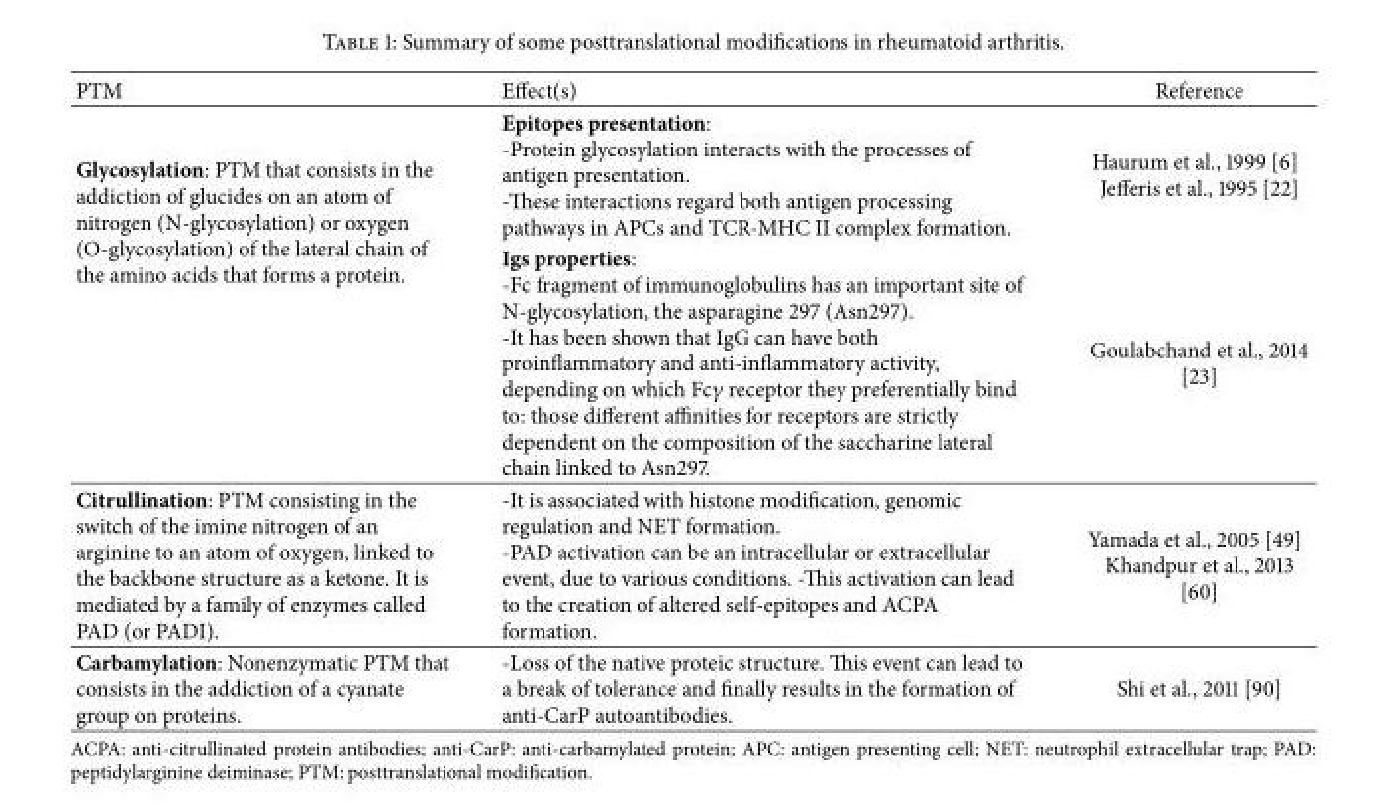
<table><tbody><tr><td>PTM</td><td>Effect(s)</td><td>Reference</td></tr><tr><td rowspan="2">Glycosylation: PTM that consists in the addiction of glucides on an atom of nitrogen (N-glycosylation) or oxygen (O-glycosylation) of the lateral chain of the amino acids that forms a protein.</td><td>Epitopes presentation: -Protein glycosylation interacts with the processes of antigen presentation. -These interactions regard both antigen processing pathways in APCs and TCR-MHC II complex formation.</td><td>Haurum et al., 1999 [6] Jefferis et al., 1995 [22]</td></tr><tr><td>Igs properties: -Fc fragment of immunoglobulins has an important site of N-glycosylation, the asparagine 297 (Asn297). -It has been shown that IgG can have both proinflammatory and anti-inflammatory activity, depending on which Fc𝛾 receptor they preferentially bind to: those different affinities for receptors are strictly dependent on the composition of the saccharine lateral chain linked to Asn297.</td><td>Goulabchand et al., 2014 [23]</td></tr><tr><td>Citrullination: PTM consisting in the switch of the imine nitrogen of an arginine to an atom of oxygen, linked to the backbone structure as a ketone. It is mediated by a family of enzymes called PAD (or PADI).</td><td>-It is associated with histone modification, genomic regulation and NET formation. -PAD activation can be an intracellular or extracellular event, due to various conditions. -This activation can lead to the creation of altered self-epitopes and ACPA formation.</td><td>Yamada et al., 2005 [49] Khandpur et al., 2013 [60]</td></tr><tr><td>Carbamylation: Nonenzymatic PTM that consists in the addiction of a cyanate group on proteins.</td><td>-Loss of the native proteic structure. This event can lead to a break of tolerance and finally results in the formation of anti-CarP autoantibodies.</td><td>Shi et al., 2011 [90]</td></tr></tbody></table>